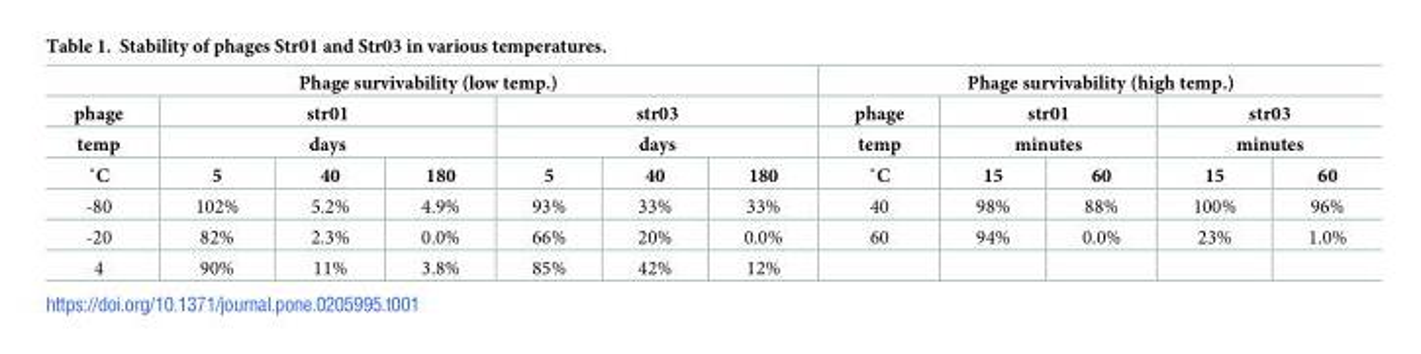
<table><thead><tr><td colspan="7">Phage survivability (low temp.)</td><td colspan="5">Phage survivability (high temp.)</td></tr><tr><td rowspan="3">phage temp ˚C</td><td rowspan="2" colspan="3">str01 days</td><td rowspan="2" colspan="3">str03 days</td><td rowspan="3">phage temp ˚C</td><td rowspan="2" colspan="2">str01 minutes</td><td rowspan="2" colspan="2">str03 minutes</td></tr><tr></tr><tr><td>5</td><td>40</td><td>180</td><td>5</td><td>40</td><td>180</td><td>15</td><td>60</td><td>15</td><td>60</td></tr></thead><tbody><tr><td>-80</td><td>102%</td><td>5.2%</td><td>4.9%</td><td>93%</td><td>33%</td><td>33%</td><td>40</td><td>98%</td><td>88%</td><td>100%</td><td>96%</td></tr><tr><td>-20</td><td>82%</td><td>2.3%</td><td>0.0%</td><td>66%</td><td>20%</td><td>0.0%</td><td>60</td><td>94%</td><td>0.0%</td><td>23%</td><td>1.0%</td></tr><tr><td>4</td><td>90%</td><td>11%</td><td>3.8%</td><td>85%</td><td>42%</td><td>12%</td><td></td><td></td><td></td><td></td><td></td></tr></tbody></table>